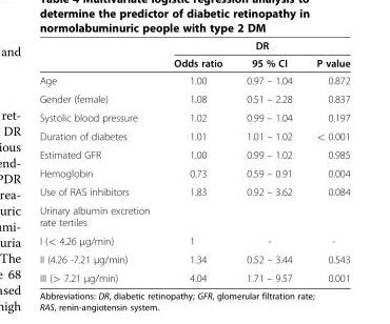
<table><thead><tr><td rowspan="2"></td><td colspan="3">DR</td></tr><tr><td>Odds ratio</td><td>95 % CI</td><td>P value</td></tr></thead><tbody><tr><td>Age</td><td>1.00</td><td>0.97 – 1.04</td><td>0.872</td></tr><tr><td>Gender (female)</td><td>1.08</td><td>0.51 – 2.28</td><td>0.837</td></tr><tr><td>Systolic blood pressure</td><td>1.02</td><td>0.99 – 1.04</td><td>0.197</td></tr><tr><td>Duration of diabetes</td><td>1.01</td><td>1.01 – 1.02</td><td>&lt; 0.001</td></tr><tr><td>Estimated GFR</td><td>1.00</td><td>0.99 – 1.02</td><td>0.985</td></tr><tr><td>Hemoglobin</td><td>0.73</td><td>0.59 – 0.91</td><td>0.004</td></tr><tr><td>Use of RAS inhibitors</td><td>1.83</td><td>0.92 – 3.62</td><td>0.084</td></tr><tr><td colspan="4">Urinary albumin excretion rate tertiles</td></tr><tr><td>I (&lt; 4.26 μg/min)</td><td>1</td><td>-</td><td>-</td></tr><tr><td>II (4.26 -7.21 μg/min)</td><td>1.34</td><td>0.52 – 3.44</td><td>0.543</td></tr><tr><td>III (&gt; 7.21 μg/min)</td><td>4.04</td><td>1.71 – 9.57</td><td>0.001</td></tr></tbody></table>